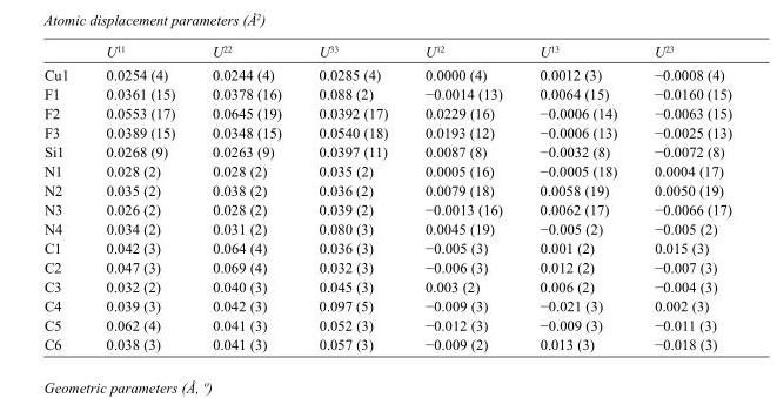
<table><thead><tr><td></td><td>U<sup>11</sup></td><td>U<sup>22</sup></td><td>U<sup>33</sup></td><td>U<sup>12</sup></td><td>U<sup>13</sup></td><td>U<sup>23</sup></td></tr></thead><tbody><tr><td>Cu1</td><td>0.0254 (4)</td><td>0.0244 (4)</td><td>0.0285 (4)</td><td>0.0000 (4)</td><td>0.0012 (3)</td><td>−0.0008 (4)</td></tr><tr><td>F1</td><td>0.0361 (15)</td><td>0.0378 (16)</td><td>0.088 (2)</td><td>−0.0014 (13)</td><td>0.0064 (15)</td><td>−0.0160 (15)</td></tr><tr><td>F2</td><td>0.0553 (17)</td><td>0.0645 (19)</td><td>0.0392 (17)</td><td>0.0229 (16)</td><td>−0.0006 (14)</td><td>−0.0063 (15)</td></tr><tr><td>F3</td><td>0.0389 (15)</td><td>0.0348 (15)</td><td>0.0540 (18)</td><td>0.0193 (12)</td><td>−0.0006 (13)</td><td>−0.0025 (13)</td></tr><tr><td>Si1</td><td>0.0268 (9)</td><td>0.0263 (9)</td><td>0.0397 (11)</td><td>0.0087 (8)</td><td>−0.0032 (8)</td><td>−0.0072 (8)</td></tr><tr><td>N1</td><td>0.028 (2)</td><td>0.028 (2)</td><td>0.035 (2)</td><td>0.0005 (16)</td><td>−0.0005 (18)</td><td>0.0004 (17)</td></tr><tr><td>N2</td><td>0.035 (2)</td><td>0.038 (2)</td><td>0.036 (2)</td><td>0.0079 (18)</td><td>0.0058 (19)</td><td>0.0050 (19)</td></tr><tr><td>N3</td><td>0.026 (2)</td><td>0.028 (2)</td><td>0.039 (2)</td><td>−0.0013 (16)</td><td>0.0062 (17)</td><td>−0.0066 (17)</td></tr><tr><td>N4</td><td>0.034 (2)</td><td>0.031 (2)</td><td>0.080 (3)</td><td>0.0045 (19)</td><td>−0.005 (2)</td><td>−0.005 (2)</td></tr><tr><td>C1</td><td>0.042 (3)</td><td>0.064 (4)</td><td>0.036 (3)</td><td>−0.005 (3)</td><td>0.001 (2)</td><td>0.015 (3)</td></tr><tr><td>C2</td><td>0.047 (3)</td><td>0.069 (4)</td><td>0.032 (3)</td><td>−0.006 (3)</td><td>0.012 (2)</td><td>−0.007 (3)</td></tr><tr><td>C3</td><td>0.032 (2)</td><td>0.040 (3)</td><td>0.045 (3)</td><td>0.003 (2)</td><td>0.006 (2)</td><td>−0.004 (3)</td></tr><tr><td>C4</td><td>0.039 (3)</td><td>0.042 (3)</td><td>0.097 (5)</td><td>−0.009 (3)</td><td>−0.021 (3)</td><td>0.002 (3)</td></tr><tr><td>C5</td><td>0.062 (4)</td><td>0.041 (3)</td><td>0.052 (3)</td><td>−0.012 (3)</td><td>−0.009 (3)</td><td>−0.011 (3)</td></tr><tr><td>C6</td><td>0.038 (3)</td><td>0.041 (3)</td><td>0.057 (3)</td><td>−0.009 (2)</td><td>0.013 (3)</td><td>−0.018 (3)</td></tr></tbody></table>